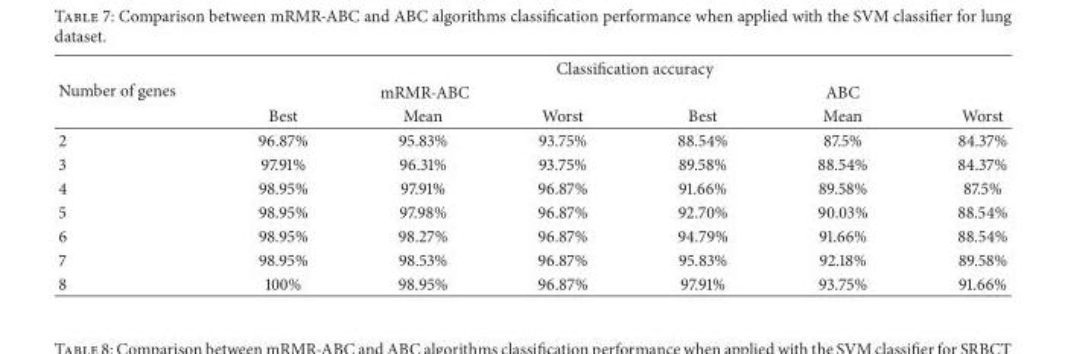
<table><thead><tr><td rowspan="3">Number of genes</td><td colspan="6">Classification accuracy</td></tr><tr><td colspan="3">mRMR-ABC</td><td colspan="3">ABC</td></tr><tr><td>Best</td><td>Mean</td><td>Worst</td><td>Best</td><td>Mean</td><td>Worst</td></tr></thead><tbody><tr><td>2</td><td>96.87%</td><td>95.83%</td><td>93.75%</td><td>88.54%</td><td>87.5%</td><td>84.37%</td></tr><tr><td>3</td><td>97.91%</td><td>96.31%</td><td>93.75%</td><td>89.58%</td><td>88.54%</td><td>84.37%</td></tr><tr><td>4</td><td>98.95%</td><td>97.91%</td><td>96.87%</td><td>91.66%</td><td>89.58%</td><td>87.5%</td></tr><tr><td>5</td><td>98.95%</td><td>97.98%</td><td>96.87%</td><td>92.70%</td><td>90.03%</td><td>88.54%</td></tr><tr><td>6</td><td>98.95%</td><td>98.27%</td><td>96.87%</td><td>94.79%</td><td>91.66%</td><td>88.54%</td></tr><tr><td>7</td><td>98.95%</td><td>98.53%</td><td>96.87%</td><td>95.83%</td><td>92.18%</td><td>89.58%</td></tr><tr><td>8</td><td>100%</td><td>98.95%</td><td>96.87%</td><td>97.91%</td><td>93.75%</td><td>91.66%</td></tr></tbody></table>